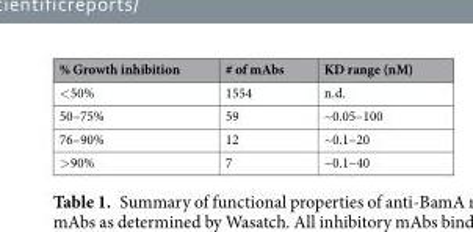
<table><thead><tr><td>% Growth inhibition</td><td># of mAbs</td><td>KD range (nM)</td></tr></thead><tbody><tr><td>&lt;50%</td><td>1554</td><td>n.d.</td></tr><tr><td>50–75%</td><td>59</td><td>~0.05–100</td></tr><tr><td>76–90%</td><td>12</td><td>~0.1–20</td></tr><tr><td>&gt;90%</td><td>7</td><td>~0.1–40</td></tr></tbody></table>